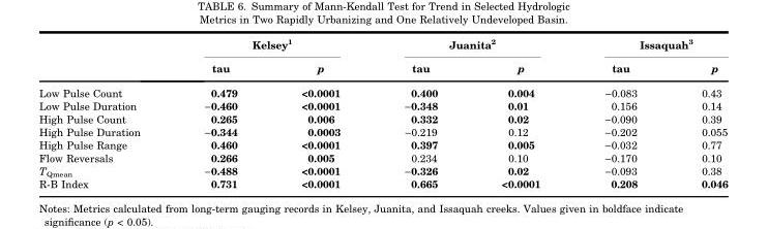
<table><thead><tr><td rowspan="2"></td><td colspan="2">Kelsey<sup>1</sup></td><td colspan="2">Juanita<sup>2</sup></td><td colspan="2">Issaquah<sup>3</sup></td></tr><tr><td>tau</td><td>p</td><td>tau</td><td>p</td><td>tau</td><td>p</td></tr></thead><tbody><tr><td>Low Pulse Count</td><td>0.479</td><td>&lt;0.0001</td><td>0.400</td><td>0.004</td><td>−0.083</td><td>0.43</td></tr><tr><td>Low Pulse Duration</td><td>−0.460</td><td>&lt;0.0001</td><td>−0.348</td><td>0.01</td><td>0.156</td><td>0.14</td></tr><tr><td>High Pulse Count</td><td>0.265</td><td>0.006</td><td>0.332</td><td>0.02</td><td>−0.090</td><td>0.39</td></tr><tr><td>High Pulse Duration</td><td>−0.344</td><td>0.0003</td><td>−0.219</td><td>0.12</td><td>−0.202</td><td>0.055</td></tr><tr><td>High Pulse Range</td><td>0.460</td><td>&lt;0.0001</td><td>0.397</td><td>0.005</td><td>−0.032</td><td>0.77</td></tr><tr><td>Flow Reversals</td><td>0.266</td><td>0.005</td><td>0.234</td><td>0.10</td><td>−0.170</td><td>0.10</td></tr><tr><td>T<sub>Qmean</sub></td><td>−0.488</td><td>&lt;0.0001</td><td>−0.326</td><td>0.02</td><td>−0.093</td><td>0.38</td></tr><tr><td>R-B Index</td><td>0.731</td><td>&lt;0.0001</td><td>0.665</td><td>&lt;0.0001</td><td>0.208</td><td>0.046</td></tr></tbody></table>